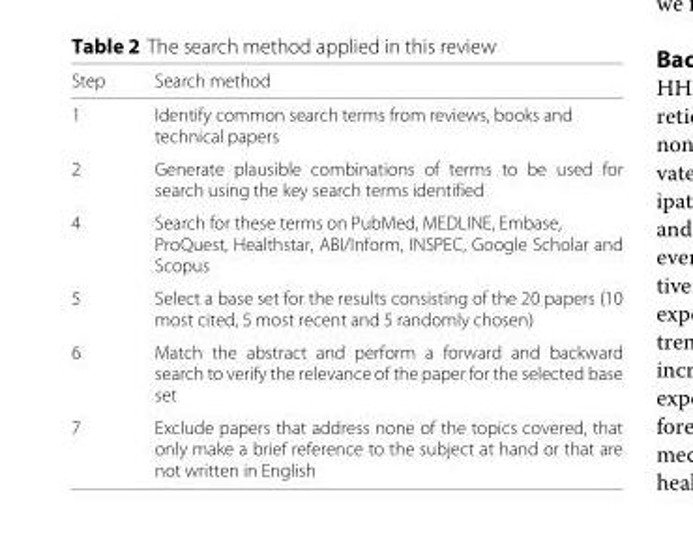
<table><thead><tr><td>Step</td><td>Search method</td></tr></thead><tbody><tr><td>1</td><td>Identify common search terms from reviews, books and technical papers</td></tr><tr><td>2</td><td>Generate plausible combinations of terms to be used for search using the key search terms identified</td></tr><tr><td>4</td><td>Search for these terms on PubMed, MEDLINE, Embase, ProQuest, Healthstar, ABI/Inform, INSPEC, Google Scholar and Scopus</td></tr><tr><td>5</td><td>Select a base set for the results consisting of the 20 papers (10 most cited, 5 most recent and 5 randomly chosen)</td></tr><tr><td>6</td><td>Match the abstract and perform a forward and backward search to verify the relevance of the paper for the selected base set</td></tr><tr><td>7</td><td>Exclude papers that address none of the topics covered, that only make a brief reference to the subject at hand or that are not written in English</td></tr></tbody></table>